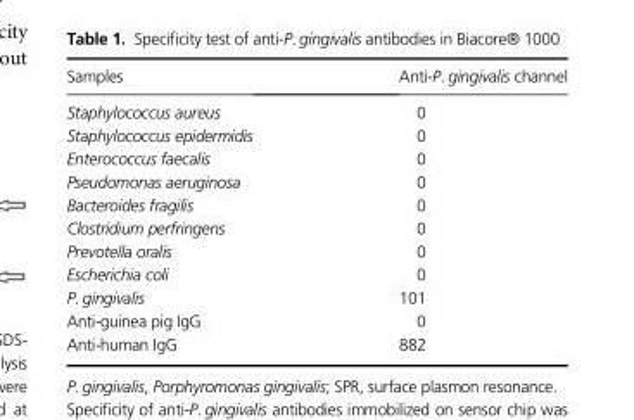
<table><thead><tr><td>Samples</td><td>Anti-P. gingivalis channel</td></tr></thead><tbody><tr><td>Staphylococcus aureus</td><td>0</td></tr><tr><td>Staphylococcus epidermidis</td><td>0</td></tr><tr><td>Enterococcus faecalis</td><td>0</td></tr><tr><td>Pseudomonas aeruginosa</td><td>0</td></tr><tr><td>Bacteroides fragilis</td><td>0</td></tr><tr><td>Clostridium perfringens</td><td>0</td></tr><tr><td>Prevotella oralis</td><td>0</td></tr><tr><td>Escherichia coli</td><td>0</td></tr><tr><td>P. gingivalis</td><td>101</td></tr><tr><td>Anti-guinea pig IgG</td><td>0</td></tr><tr><td>Anti-human IgG</td><td>882</td></tr></tbody></table>